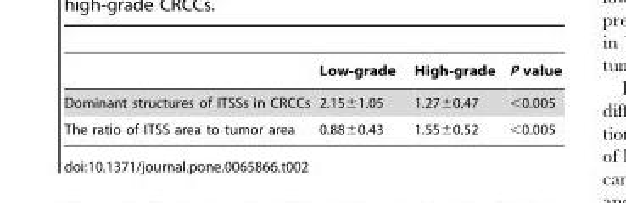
<table><thead><tr><td></td><td>Low-grade</td><td>High-grade</td><td>P value</td></tr></thead><tbody><tr><td>Dominant structures of ITSSs in CRCCs</td><td>2.15±1.05</td><td>1.27±0.47</td><td>&lt;0.005</td></tr><tr><td>The ratio of ITSS area to tumor area</td><td>0.88±0.43</td><td>1.55±0.52</td><td>&lt;0.005</td></tr></tbody></table>